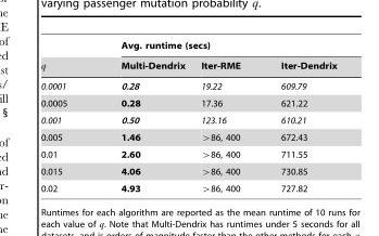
<table><thead><tr><td rowspan="2">q</td><td colspan="3">Avg. runtime (secs)</td></tr><tr><td>Multi-Dendrix</td><td>Iter-RME</td><td>Iter-Dendrix</td></tr></thead><tbody><tr><td>0.0001</td><td>0.28</td><td>19.22</td><td>609.79</td></tr><tr><td>0.0005</td><td>0.28</td><td>17.36</td><td>621.22</td></tr><tr><td>0.001</td><td>0.50</td><td>123.16</td><td>610.21</td></tr><tr><td>0.005</td><td>1.46</td><td>w86, 400</td><td>672.43</td></tr><tr><td>0.01</td><td>2.60</td><td>w86, 400</td><td>711.55</td></tr><tr><td>0.015</td><td>4.06</td><td>w86, 400</td><td>730.85</td></tr><tr><td>0.02</td><td>4.93</td><td>w86, 400</td><td>727.82</td></tr></tbody></table>